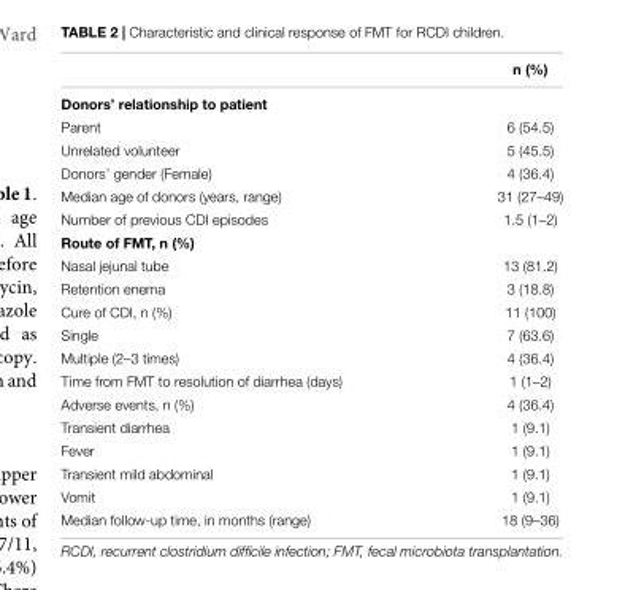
<table><thead><tr><td></td><td>n (%)</td></tr></thead><tbody><tr><td colspan="2">Donors’ relationship to patient</td></tr><tr><td>Parent</td><td>6 (54.5)</td></tr><tr><td>Unrelated volunteer</td><td>5 (45.5)</td></tr><tr><td>Donors’ gender (Female)</td><td>4 (36.4)</td></tr><tr><td>Median age of donors (years, range)</td><td>31 (27–49)</td></tr><tr><td>Number of previous CDI episodes</td><td>1.5 (1–2)</td></tr><tr><td colspan="2">Route of FMT, n (%)</td></tr><tr><td>Nasal jejunal tube</td><td>13 (81.2)</td></tr><tr><td>Retention enema</td><td>3 (18.8)</td></tr><tr><td>Cure of CDI, n (%)</td><td>11 (100)</td></tr><tr><td>Single</td><td>7 (63.6)</td></tr><tr><td>Multiple (2–3 times)</td><td>4 (36.4)</td></tr><tr><td>Time from FMT to resolution of diarrhea (days)</td><td>1 (1–2)</td></tr><tr><td>Adverse events, n (%)</td><td>4 (36.4)</td></tr><tr><td>Transient diarrhea</td><td>1 (9.1)</td></tr><tr><td>Fever</td><td>1 (9.1)</td></tr><tr><td>Transient mild abdominal</td><td>1 (9.1)</td></tr><tr><td>Vomit</td><td>1 (9.1)</td></tr><tr><td>Median follow-up time, in months (range)</td><td>18 (9–36)</td></tr></tbody></table>